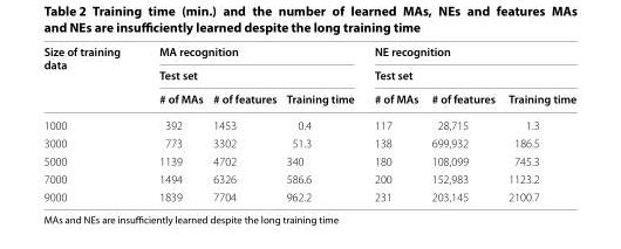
<table><thead><tr><td rowspan="3">Size of training data</td><td rowspan="2" colspan="3">MA recognition Test set</td><td rowspan="2" colspan="3">NE recognition Test set</td></tr><tr></tr><tr><td># of MAs</td><td># of features</td><td>Training time</td><td># of MAs</td><td># of features</td><td>Training time</td></tr></thead><tbody><tr><td>1000</td><td>392</td><td>1453</td><td>0.4</td><td>117</td><td>28,715</td><td>1.3</td></tr><tr><td>3000</td><td>773</td><td>3302</td><td>51.3</td><td>138</td><td>699,932</td><td>186.5</td></tr><tr><td>5000</td><td>1139</td><td>4702</td><td>340</td><td>180</td><td>108,099</td><td>745.3</td></tr><tr><td>7000</td><td>1494</td><td>6326</td><td>586.6</td><td>200</td><td>152,983</td><td>1123.2</td></tr><tr><td>9000</td><td>1839</td><td>7704</td><td>962.2</td><td>231</td><td>203,145</td><td>2100.7</td></tr></tbody></table>